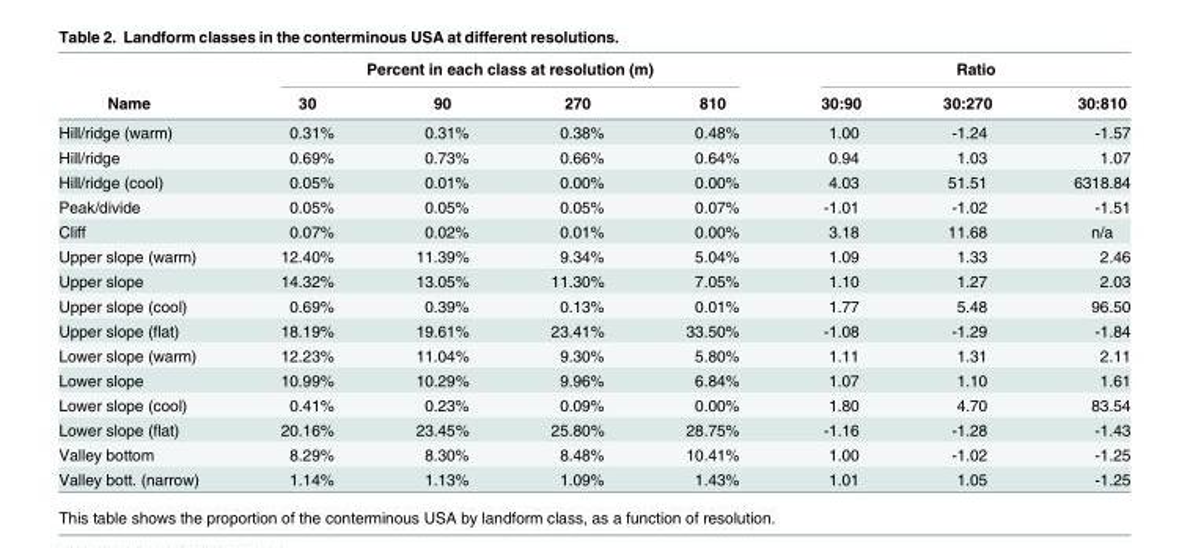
<table><thead><tr><td rowspan="2">Name</td><td colspan="4">Percent in each class at resolution (m)</td><td colspan="3">Ratio</td></tr><tr><td>30</td><td>90</td><td>270</td><td>810</td><td>30:90</td><td>30:270</td><td>30:810</td></tr></thead><tbody><tr><td>Hill/ridge (warm)</td><td>0.31%</td><td>0.31%</td><td>0.38%</td><td>0.48%</td><td>1.00</td><td>-1.24</td><td>-1.57</td></tr><tr><td>Hill/ridge</td><td>0.69%</td><td>0.73%</td><td>0.66%</td><td>0.64%</td><td>0.94</td><td>1.03</td><td>1.07</td></tr><tr><td>Hill/ridge (cool)</td><td>0.05%</td><td>0.01%</td><td>0.00%</td><td>0.00%</td><td>4.03</td><td>51.51</td><td>6318.84</td></tr><tr><td>Peak/divide</td><td>0.05%</td><td>0.05%</td><td>0.05%</td><td>0.07%</td><td>-1.01</td><td>-1.02</td><td>-1.51</td></tr><tr><td>Cliff</td><td>0.07%</td><td>0.02%</td><td>0.01%</td><td>0.00%</td><td>3.18</td><td>11.68</td><td>n/a</td></tr><tr><td>Upper slope (warm)</td><td>12.40%</td><td>11.39%</td><td>9.34%</td><td>5.04%</td><td>1.09</td><td>1.33</td><td>2.46</td></tr><tr><td>Upper slope</td><td>14.32%</td><td>13.05%</td><td>11.30%</td><td>7.05%</td><td>1.10</td><td>1.27</td><td>2.03</td></tr><tr><td>Upper slope (cool)</td><td>0.69%</td><td>0.39%</td><td>0.13%</td><td>0.01%</td><td>1.77</td><td>5.48</td><td>96.50</td></tr><tr><td>Upper slope (flat)</td><td>18.19%</td><td>19.61%</td><td>23.41%</td><td>33.50%</td><td>-1.08</td><td>-1.29</td><td>-1.84</td></tr><tr><td>Lower slope (warm)</td><td>12.23%</td><td>11.04%</td><td>9.30%</td><td>5.80%</td><td>1.11</td><td>1.31</td><td>2.11</td></tr><tr><td>Lower slope</td><td>10.99%</td><td>10.29%</td><td>9.96%</td><td>6.84%</td><td>1.07</td><td>1.10</td><td>1.61</td></tr><tr><td>Lower slope (cool)</td><td>0.41%</td><td>0.23%</td><td>0.09%</td><td>0.00%</td><td>1.80</td><td>4.70</td><td>83.54</td></tr><tr><td>Lower slope (flat)</td><td>20.16%</td><td>23.45%</td><td>25.80%</td><td>28.75%</td><td>-1.16</td><td>-1.28</td><td>-1.43</td></tr><tr><td>Valley bottom</td><td>8.29%</td><td>8.30%</td><td>8.48%</td><td>10.41%</td><td>1.00</td><td>-1.02</td><td>-1.25</td></tr><tr><td>Valley bott. (narrow)</td><td>1.14%</td><td>1.13%</td><td>1.09%</td><td>1.43%</td><td>1.01</td><td>1.05</td><td>-1.25</td></tr></tbody></table>